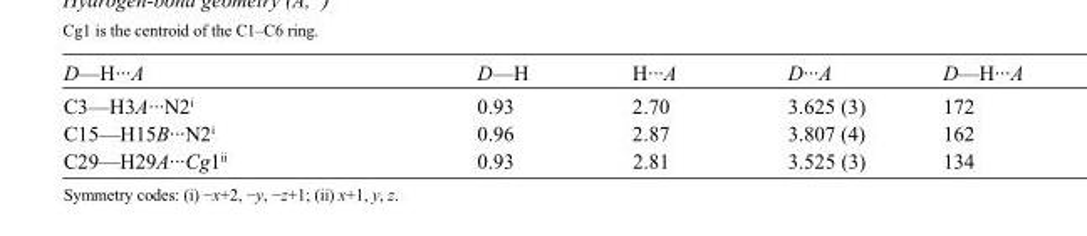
<table><tbody><tr><td>D—H···A</td><td>D—H</td><td>H···A</td><td>D···A</td><td>D—H···A</td></tr><tr><td>C3—H3A···N2<sup>i</sup></td><td>0.93</td><td>2.70</td><td>3.625 (3)</td><td>172</td></tr><tr><td>C15—H15B···N2<sup>i</sup></td><td>0.96</td><td>2.87</td><td>3.807 (4)</td><td>162</td></tr><tr><td>C29—H29A···Cg1<sup>ii</sup></td><td>0.93</td><td>2.81</td><td>3.525 (3)</td><td>134</td></tr></tbody></table>